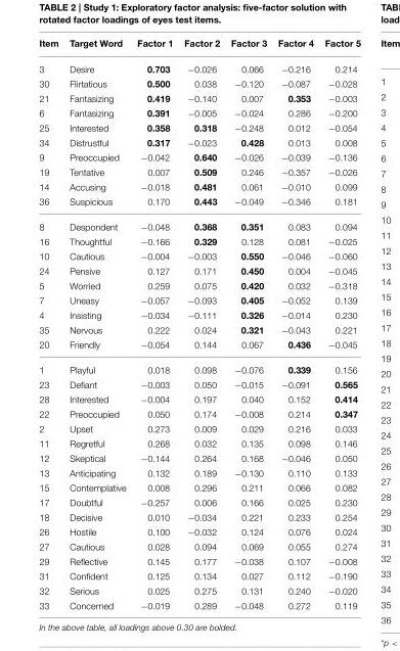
<table><thead><tr><td>Item</td><td>Target Word</td><td>Factor 1</td><td>Factor 2</td><td>Factor 3</td><td>Factor 4</td><td>Factor 5</td></tr></thead><tbody><tr><td>3</td><td>Desire</td><td>0.703</td><td>−0.026</td><td>0.066</td><td>−0.216</td><td>0.214</td></tr><tr><td>30</td><td>Flirtatious</td><td>0.500</td><td>0.038</td><td>−0.120</td><td>−0.087</td><td>−0.028</td></tr><tr><td>21</td><td>Fantasizing</td><td>0.419</td><td>−0.140</td><td>0.007</td><td>0.353</td><td>−0.003</td></tr><tr><td>6</td><td>Fantasizing</td><td>0.391</td><td>−0.005</td><td>−0.024</td><td>0.286</td><td>−0.200</td></tr><tr><td>25</td><td>Interested</td><td>0.358</td><td>0.318</td><td>−0.248</td><td>0.012</td><td>−0.054</td></tr><tr><td>34</td><td>Distrustful</td><td>0.317</td><td>−0.023</td><td>0.428</td><td>0.013</td><td>0.008</td></tr><tr><td>9</td><td>Preoccupied</td><td>−0.042</td><td>0.640</td><td>−0.026</td><td>−0.039</td><td>−0.136</td></tr><tr><td>19</td><td>Tentative</td><td>0.007</td><td>0.509</td><td>0.246</td><td>−0.357</td><td>−0.026</td></tr><tr><td>14</td><td>Accusing</td><td>−0.018</td><td>0.481</td><td>0.061</td><td>−0.010</td><td>0.099</td></tr><tr><td>36</td><td>Suspicious</td><td>0.170</td><td>0.443</td><td>−0.049</td><td>−0.346</td><td>0.181</td></tr><tr><td>8</td><td>Despondent</td><td>−0.048</td><td>0.368</td><td>0.351</td><td>0.083</td><td>0.094</td></tr><tr><td>16</td><td>Thoughtful</td><td>−0.166</td><td>0.329</td><td>0.128</td><td>0.081</td><td>−0.025</td></tr><tr><td>10</td><td>Cautious</td><td>−0.004</td><td>−0.003</td><td>0.550</td><td>−0.046</td><td>−0.060</td></tr><tr><td>24</td><td>Pensive</td><td>0.127</td><td>0.171</td><td>0.450</td><td>0.004</td><td>−0.045</td></tr><tr><td>5</td><td>Worried</td><td>0.259</td><td>0.075</td><td>0.420</td><td>0.032</td><td>−0.318</td></tr><tr><td>7</td><td>Uneasy</td><td>−0.057</td><td>−0.093</td><td>0.405</td><td>−0.052</td><td>0.139</td></tr><tr><td>4</td><td>Insisting</td><td>−0.034</td><td>−0.111</td><td>0.326</td><td>−0.014</td><td>0.230</td></tr><tr><td>35</td><td>Nervous</td><td>0.222</td><td>0.024</td><td>0.321</td><td>−0.043</td><td>0.221</td></tr><tr><td>20</td><td>Friendly</td><td>−0.054</td><td>0.144</td><td>0.067</td><td>0.436</td><td>−0.045</td></tr><tr><td>1</td><td>Playful</td><td>0.018</td><td>0.098</td><td>−0.076</td><td>0.339</td><td>0.156</td></tr><tr><td>23</td><td>Defiant</td><td>−0.003</td><td>0.050</td><td>−0.015</td><td>−0.091</td><td>0.565</td></tr><tr><td>28</td><td>Interested</td><td>−0.004</td><td>0.197</td><td>0.040</td><td>0.152</td><td>0.414</td></tr><tr><td>22</td><td>Preoccupied</td><td>0.050</td><td>0.174</td><td>−0.008</td><td>0.214</td><td>0.347</td></tr><tr><td>2</td><td>Upset</td><td>0.273</td><td>0.009</td><td>0.029</td><td>0.216</td><td>0.033</td></tr><tr><td>11</td><td>Regretful</td><td>0.268</td><td>0.032</td><td>0.135</td><td>0.098</td><td>0.146</td></tr><tr><td>12</td><td>Skeptical</td><td>−0.144</td><td>0.264</td><td>0.168</td><td>−0.046</td><td>0.050</td></tr><tr><td>13</td><td>Anticipating</td><td>0.132</td><td>0.189</td><td>−0.130</td><td>0.110</td><td>0.133</td></tr><tr><td>15</td><td>Contemplative</td><td>0.008</td><td>0.296</td><td>0.211</td><td>0.066</td><td>0.082</td></tr><tr><td>17</td><td>Doubtful</td><td>−0.257</td><td>0.006</td><td>0.166</td><td>0.025</td><td>0.230</td></tr><tr><td>18</td><td>Decisive</td><td>0.010</td><td>−0.034</td><td>0.221</td><td>0.233</td><td>0.254</td></tr><tr><td>26</td><td>Hostile</td><td>0.100</td><td>−0.032</td><td>0.124</td><td>0.076</td><td>0.024</td></tr><tr><td>27</td><td>Cautious</td><td>0.028</td><td>0.094</td><td>0.069</td><td>0.055</td><td>0.274</td></tr><tr><td>29</td><td>Reflective</td><td>0.145</td><td>0.177</td><td>−0.038</td><td>0.107</td><td>−0.008</td></tr><tr><td>31</td><td>Confident</td><td>0.125</td><td>0.134</td><td>0.027</td><td>0.112</td><td>−0.190</td></tr><tr><td>32</td><td>Serious</td><td>0.025</td><td>0.275</td><td>0.131</td><td>0.240</td><td>−0.020</td></tr><tr><td>33</td><td>Concerned</td><td>−0.019</td><td>0.289</td><td>−0.048</td><td>0.272</td><td>0.119</td></tr></tbody></table>